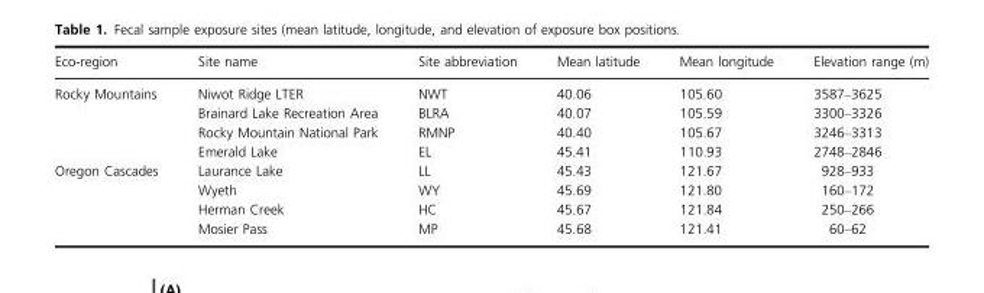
<table><thead><tr><td>Eco-region</td><td>Site name</td><td>Site abbreviation</td><td>Mean latitude</td><td>Mean longitude</td><td>Elevation range (m)</td></tr></thead><tbody><tr><td rowspan="4">Rocky Mountains</td><td>Niwot Ridge LTER</td><td>NWT</td><td>40.06</td><td>105.60</td><td>3587–3625</td></tr><tr><td>Brainard Lake Recreation Area</td><td>BLRA</td><td>40.07</td><td>105.59</td><td>3300–3326</td></tr><tr><td>Rocky Mountain National Park</td><td>RMNP</td><td>40.40</td><td>105.67</td><td>3246–3313</td></tr><tr><td>Emerald Lake</td><td>EL</td><td>45.41</td><td>110.93</td><td>2748–2846</td></tr><tr><td rowspan="4">Oregon Cascades</td><td>Laurance Lake</td><td>LL</td><td>45.43</td><td>121.67</td><td>928–933</td></tr><tr><td>Wyeth</td><td>WY</td><td>45.69</td><td>121.80</td><td>160–172</td></tr><tr><td>Herman Creek</td><td>HC</td><td>45.67</td><td>121.84</td><td>250–266</td></tr><tr><td>Mosier Pass</td><td>MP</td><td>45.68</td><td>121.41</td><td>60–62</td></tr></tbody></table>